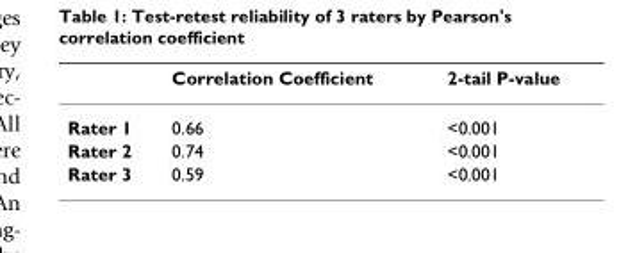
<table><thead><tr><td></td><td>Correlation Coefficient</td><td>2-tail P-value</td></tr></thead><tbody><tr><td>Rater 1</td><td>0.66</td><td>&lt;0.001</td></tr><tr><td>Rater 2</td><td>0.74</td><td>&lt;0.001</td></tr><tr><td>Rater 3</td><td>0.59</td><td>&lt;0.001</td></tr></tbody></table>